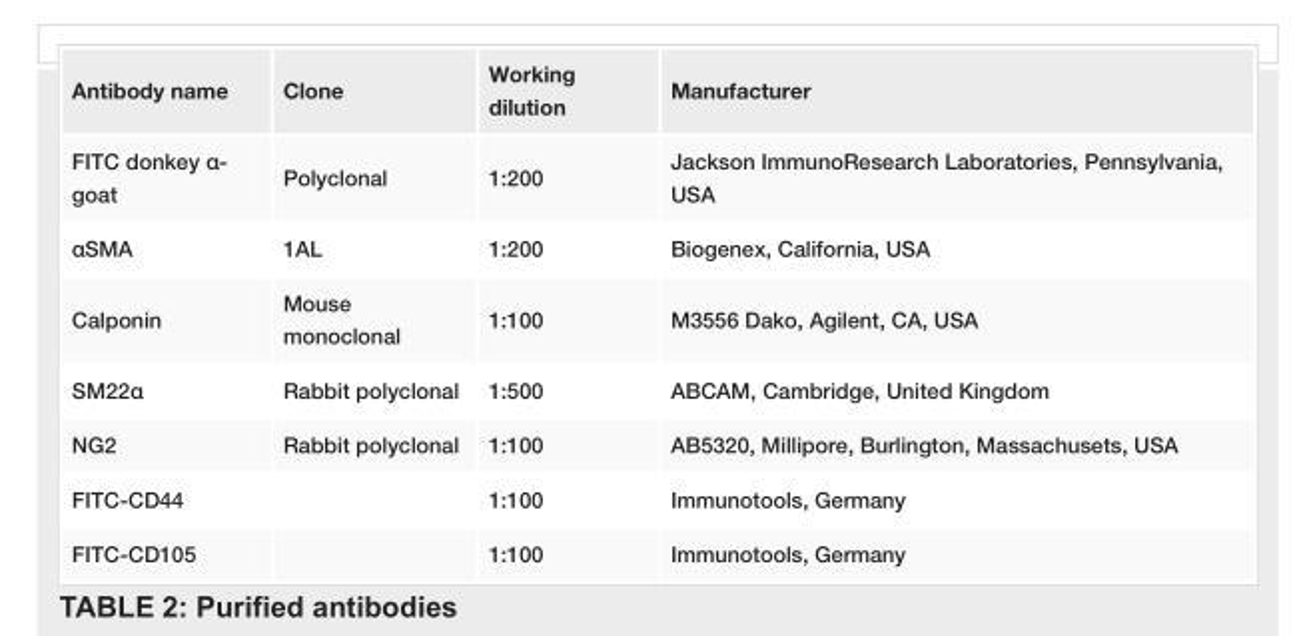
<table><tbody><tr><td>Antibody name</td><td>Clone</td><td>Working dilution</td><td>Manufacturer</td></tr><tr><td>FITC donkey α- goat</td><td>Polyclonal</td><td>1:200</td><td>Jackson ImmunoResearch Laboratories, Pennsylvania, USA</td></tr><tr><td>αSMA</td><td>1AL</td><td>1:200</td><td>Biogenex, California, USA</td></tr><tr><td>Calponin</td><td>Mouse monoclonal</td><td>1:100</td><td>M3556 Dako, Agilent, CA, USA</td></tr><tr><td>SM22α</td><td>Rabbit polyclonal</td><td>1:500</td><td>ABCAM, Cambridge, United Kingdom</td></tr><tr><td>NG2</td><td>Rabbit polyclonal</td><td>1:100</td><td>AB5320, Millipore, Burlington, Massachusets, USA</td></tr><tr><td>FITC-CD44</td><td></td><td>1:100</td><td>Immunotools, Germany</td></tr><tr><td>FITC-CD105</td><td></td><td>1:100</td><td>Immunotools, Germany</td></tr></tbody></table>